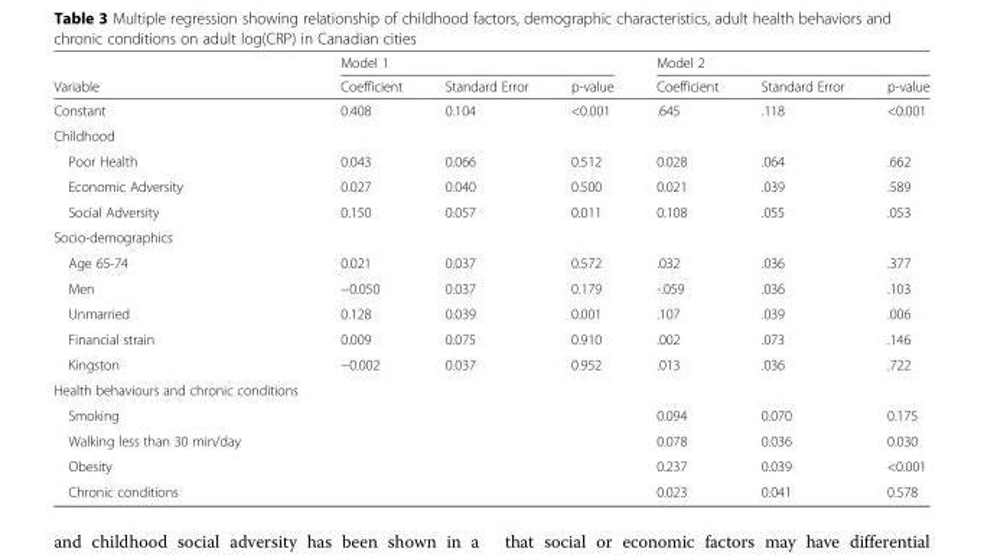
<table><thead><tr><td rowspan="2">Variable</td><td colspan="3">Model 1</td><td colspan="3">Model 2</td></tr><tr><td>Coefficient</td><td>Standard Error</td><td>p-value</td><td>Coefficient</td><td>Standard Error</td><td>p-value</td></tr></thead><tbody><tr><td>Constant</td><td>0.408</td><td>0.104</td><td>&lt;0.001</td><td>.645</td><td>.118</td><td>&lt;0.001</td></tr><tr><td colspan="7">Childhood</td></tr><tr><td>Poor Health</td><td>0.043</td><td>0.066</td><td>0.512</td><td>0.028</td><td>.064</td><td>.662</td></tr><tr><td>Economic Adversity</td><td>0.027</td><td>0.040</td><td>0.500</td><td>0.021</td><td>.039</td><td>.589</td></tr><tr><td>Social Adversity</td><td>0.150</td><td>0.057</td><td>0.011</td><td>0.108</td><td>.055</td><td>.053</td></tr><tr><td colspan="7">Socio-demographics</td></tr><tr><td>Age 65-74</td><td>0.021</td><td>0.037</td><td>0.572</td><td>.032</td><td>.036</td><td>.377</td></tr><tr><td>Men</td><td>−0.050</td><td>0.037</td><td>0.179</td><td>-.059</td><td>.036</td><td>.103</td></tr><tr><td>Unmarried</td><td>0.128</td><td>0.039</td><td>0.001</td><td>.107</td><td>.039</td><td>.006</td></tr><tr><td>Financial strain</td><td>0.009</td><td>0.075</td><td>0.910</td><td>.002</td><td>.073</td><td>.146</td></tr><tr><td>Kingston</td><td>−0.002</td><td>0.037</td><td>0.952</td><td>.013</td><td>.036</td><td>.722</td></tr><tr><td colspan="7">Health behaviours and chronic conditions</td></tr><tr><td>Smoking</td><td></td><td></td><td></td><td>0.094</td><td>0.070</td><td>0.175</td></tr><tr><td>Walking less than 30 min/day</td><td></td><td></td><td></td><td>0.078</td><td>0.036</td><td>0.030</td></tr><tr><td>Obesity</td><td></td><td></td><td></td><td>0.237</td><td>0.039</td><td>&lt;0.001</td></tr><tr><td>Chronic conditions</td><td></td><td></td><td></td><td>0.023</td><td>0.041</td><td>0.578</td></tr></tbody></table>